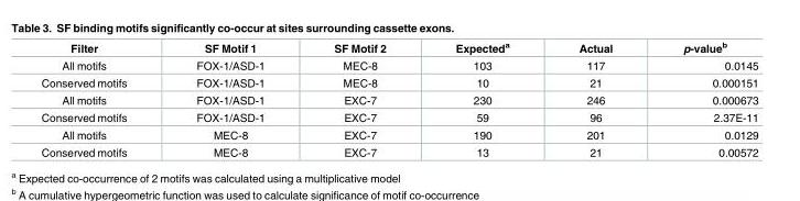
<table><thead><tr><td>Filter</td><td>SF Motif 1</td><td>SF Motif 2</td><td>Expected<sup>a</sup></td><td>Actual</td><td>p-value<sup>b</sup></td></tr></thead><tbody><tr><td>All motifs</td><td>FOX-1/ASD-1</td><td>MEC-8</td><td>103</td><td>117</td><td>0.0145</td></tr><tr><td>Conserved motifs</td><td>FOX-1/ASD-1</td><td>MEC-8</td><td>10</td><td>21</td><td>0.000151</td></tr><tr><td>All motifs</td><td>FOX-1/ASD-1</td><td>EXC-7</td><td>230</td><td>246</td><td>0.000673</td></tr><tr><td>Conserved motifs</td><td>FOX-1/ASD-1</td><td>EXC-7</td><td>59</td><td>96</td><td>2.37E-11</td></tr><tr><td>All motifs</td><td>MEC-8</td><td>EXC-7</td><td>190</td><td>201</td><td>0.0129</td></tr><tr><td>Conserved motifs</td><td>MEC-8</td><td>EXC-7</td><td>13</td><td>21</td><td>0.00572</td></tr></tbody></table>